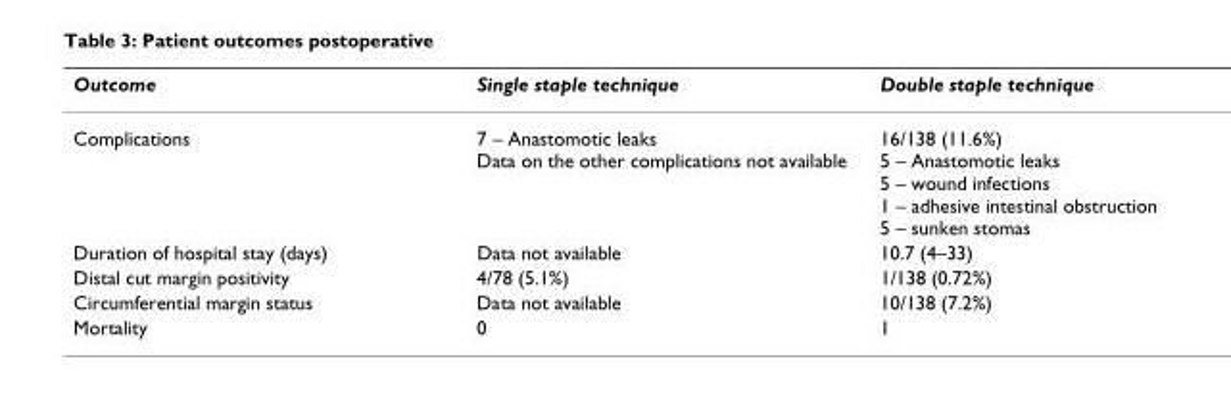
<table><thead><tr><td>Outcome</td><td>Single staple technique</td><td>Double staple technique</td></tr></thead><tbody><tr><td>Complications</td><td>7 – Anastomotic leaks Data on the other complications not available</td><td>16/138 (11.6%) 5 – Anastomotic leaks 5 – wound infections 1 – adhesive intestinal obstruction 5 – sunken stomas</td></tr><tr><td>Duration of hospital stay (days)</td><td>Data not available</td><td>10.7 (4–33)</td></tr><tr><td>Distal cut margin positivity</td><td>4/78 (5.1%)</td><td>1/138 (0.72%)</td></tr><tr><td>Circumferential margin status</td><td>Data not available</td><td>10/138 (7.2%)</td></tr><tr><td>Mortality</td><td>0</td><td>1</td></tr></tbody></table>